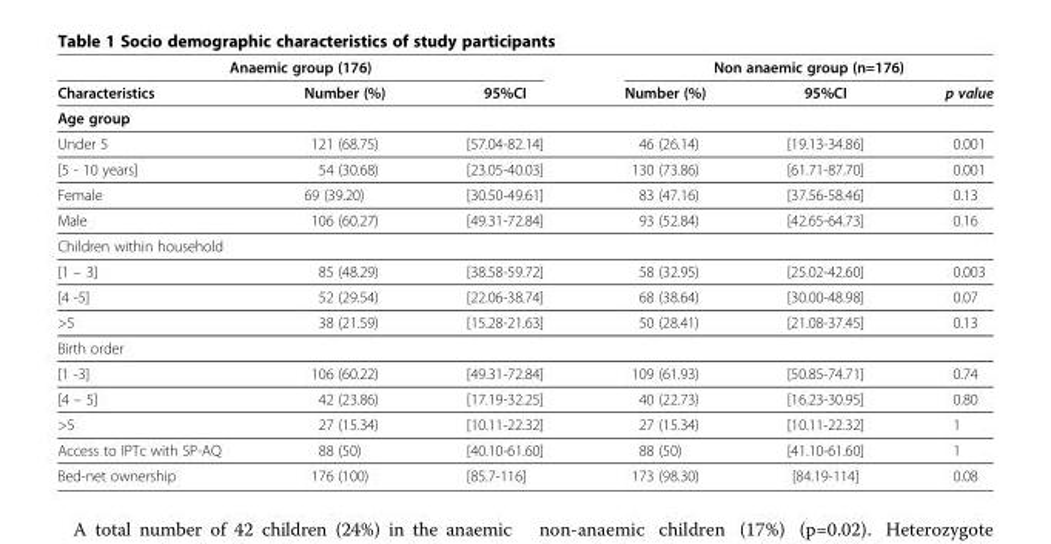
<table><thead><tr><td colspan="3">Anaemic group (176)</td><td colspan="3">Non anaemic group (n=176)</td></tr><tr><td>Characteristics</td><td>Number (%)</td><td>95%CI</td><td>Number (%)</td><td>95%CI</td><td>p value</td></tr></thead><tbody><tr><td colspan="6">Age group</td></tr><tr><td>Under 5</td><td>121 (68.75)</td><td>[57.04-82.14]</td><td>46 (26.14)</td><td>[19.13-34.86]</td><td>0.001</td></tr><tr><td>[5 - 10 years]</td><td>54 (30.68)</td><td>[23.05-40.03]</td><td>130 (73.86)</td><td>[61.71-87.70]</td><td>0.001</td></tr><tr><td>Female</td><td>69 (39.20)</td><td>[30.50-49.61]</td><td>83 (47.16)</td><td>[37.56-58.46]</td><td>0.13</td></tr><tr><td>Male</td><td>106 (60.27)</td><td>[49.31-72.84]</td><td>93 (52.84)</td><td>[42.65-64.73]</td><td>0.16</td></tr><tr><td colspan="6">Children within household</td></tr><tr><td>[1 – 3]</td><td>85 (48.29)</td><td>[38.58-59.72]</td><td>58 (32.95)</td><td>[25.02-42.60]</td><td>0.003</td></tr><tr><td>[4 -5]</td><td>52 (29.54)</td><td>[22.06-38.74]</td><td>68 (38.64)</td><td>[30.00-48.98]</td><td>0.07</td></tr><tr><td>&gt;5</td><td>38 (21.59)</td><td>[15.28-21.63]</td><td>50 (28.41)</td><td>[21.08-37.45]</td><td>0.13</td></tr><tr><td colspan="6">Birth order</td></tr><tr><td>[1 -3]</td><td>106 (60.22)</td><td>[49.31-72.84]</td><td>109 (61.93)</td><td>[50.85-74.71]</td><td>0.74</td></tr><tr><td>[4 – 5]</td><td>42 (23.86)</td><td>[17.19-32.25]</td><td>40 (22.73)</td><td>[16.23-30.95]</td><td>0.80</td></tr><tr><td>&gt;5</td><td>27 (15.34)</td><td>[10.11-22.32]</td><td>27 (15.34)</td><td>[10.11-22.32]</td><td>1</td></tr><tr><td>Access to IPTc with SP-AQ</td><td>88 (50)</td><td>[40.10-61.60]</td><td>88 (50)</td><td>[41.10-61.60]</td><td>1</td></tr><tr><td>Bed-net ownership</td><td>176 (100)</td><td>[85.7-116]</td><td>173 (98.30)</td><td>[84.19-114]</td><td>0.08</td></tr></tbody></table>